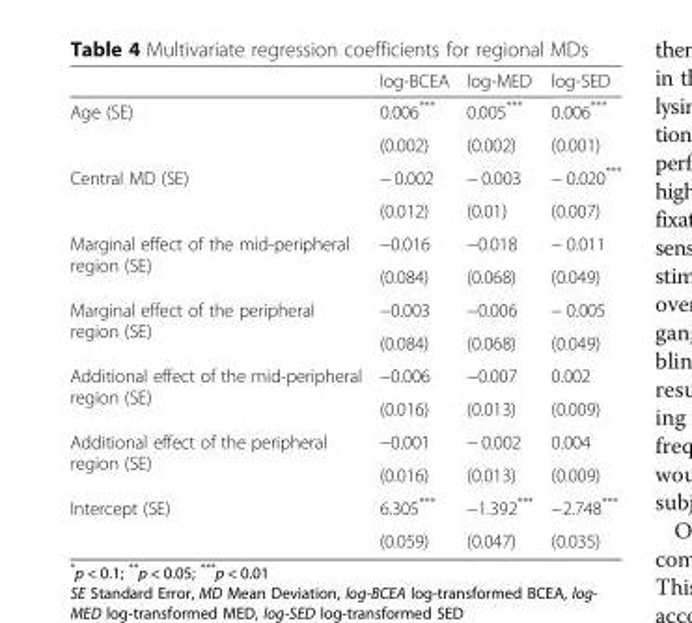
<table><thead><tr><td></td><td>log-BCEA</td><td>log-MED</td><td>log-SED</td></tr></thead><tbody><tr><td rowspan="2">Age (SE)</td><td>0.006***</td><td>0.005***</td><td>0.006***</td></tr><tr><td>(0.002)</td><td>(0.002)</td><td>(0.001)</td></tr><tr><td rowspan="2">Central MD (SE)</td><td>− 0.002</td><td>− 0.003</td><td>− 0.020***</td></tr><tr><td>(0.012)</td><td>(0.01)</td><td>(0.007)</td></tr><tr><td rowspan="2">Marginal effect of the mid-peripheral region (SE)</td><td>−0.016</td><td>−0.018</td><td>− 0.011</td></tr><tr><td>(0.084)</td><td>(0.068)</td><td>(0.049)</td></tr><tr><td rowspan="2">Marginal effect of the peripheral region (SE)</td><td>−0.003</td><td>−0.006</td><td>− 0.005</td></tr><tr><td>(0.084)</td><td>(0.068)</td><td>(0.049)</td></tr><tr><td rowspan="2">Additional effect of the mid-peripheral region (SE)</td><td>−0.006</td><td>−0.007</td><td>0.002</td></tr><tr><td>(0.016)</td><td>(0.013)</td><td>(0.009)</td></tr><tr><td rowspan="2">Additional effect of the peripheral region (SE)</td><td>−0.001</td><td>− 0.002</td><td>0.004</td></tr><tr><td>(0.016)</td><td>(0.013)</td><td>(0.009)</td></tr><tr><td rowspan="2">Intercept (SE)</td><td>6.305***</td><td>−1.392***</td><td>−2.748***</td></tr><tr><td>(0.059)</td><td>(0.047)</td><td>(0.035)</td></tr></tbody></table>